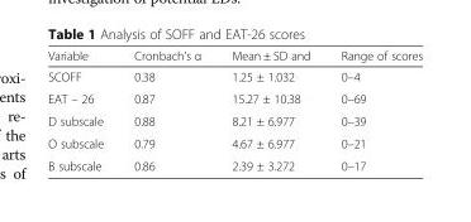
<table><thead><tr><td>Variable</td><td>Cronbach’s α</td><td>Mean ± SD and</td><td>Range of scores</td></tr></thead><tbody><tr><td>SCOFF</td><td>0.38</td><td>1.25 ± 1.032</td><td>0–4</td></tr><tr><td>EAT – 26</td><td>0.87</td><td>15.27 ± 10.38</td><td>0–69</td></tr><tr><td>D subscale</td><td>0.88</td><td>8.21 ± 6.977</td><td>0–39</td></tr><tr><td>O subscale</td><td>0.79</td><td>4.67 ± 6.977</td><td>0–21</td></tr><tr><td>B subscale</td><td>0.86</td><td>2.39 ± 3.272</td><td>0–17</td></tr></tbody></table>